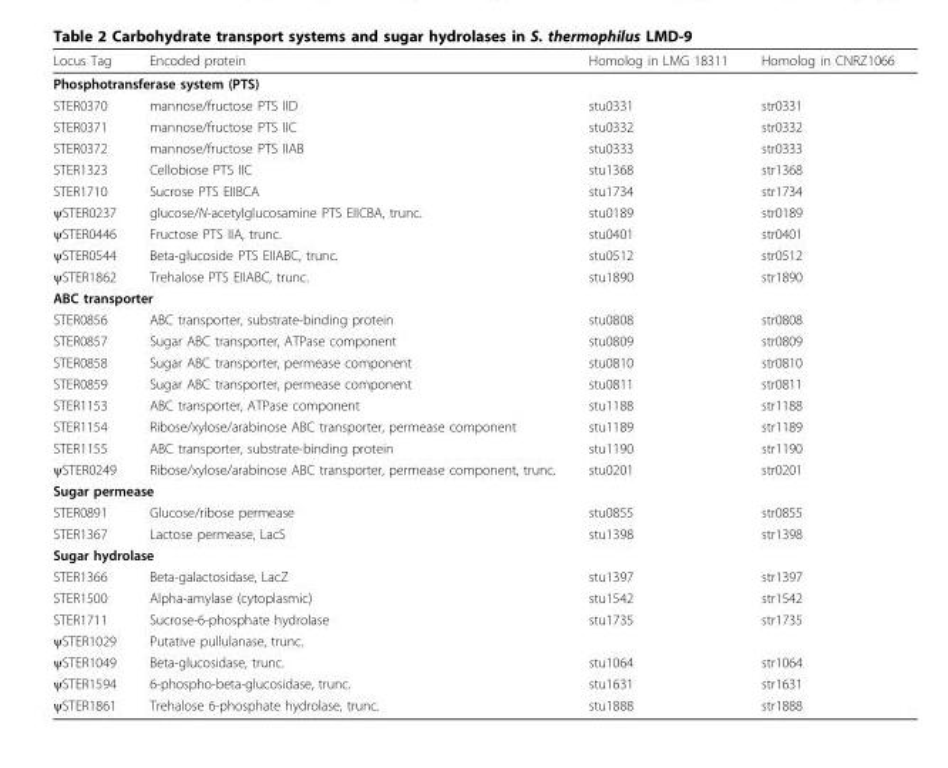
<table><thead><tr><td>Locus Tag</td><td>Encoded protein</td><td>Homolog in LMG 18311</td><td>Homolog in CNRZ1066</td></tr></thead><tbody><tr><td colspan="4">Phosphotransferase system (PTS)</td></tr><tr><td>STER0370</td><td>mannose/fructose PTS IID</td><td>stu0331</td><td>str0331</td></tr><tr><td>STER0371</td><td>mannose/fructose PTS IIC</td><td>stu0332</td><td>str0332</td></tr><tr><td>STER0372</td><td>mannose/fructose PTS IIAB</td><td>stu0333</td><td>str0333</td></tr><tr><td>STER1323</td><td>Cellobiose PTS IIC</td><td>stu1368</td><td>str1368</td></tr><tr><td>STER1710</td><td>Sucrose PTS EIIBCA</td><td>stu1734</td><td>str1734</td></tr><tr><td>ψSTER0237</td><td>glucose/N-acetylglucosamine PTS EIICBA, trunc.</td><td>stu0189</td><td>str0189</td></tr><tr><td>ψSTER0446</td><td>Fructose PTS IIA, trunc.</td><td>stu0401</td><td>str0401</td></tr><tr><td>ψSTER0544</td><td>Beta-glucoside PTS EIIABC, trunc.</td><td>stu0512</td><td>str0512</td></tr><tr><td>ψSTER1862</td><td>Trehalose PTS EIIABC, trunc.</td><td>stu1890</td><td>str1890</td></tr><tr><td colspan="4">ABC transporter</td></tr><tr><td>STER0856</td><td>ABC transporter, substrate-binding protein</td><td>stu0808</td><td>str0808</td></tr><tr><td>STER0857</td><td>Sugar ABC transporter, ATPase component</td><td>stu0809</td><td>str0809</td></tr><tr><td>STER0858</td><td>Sugar ABC transporter, permease component</td><td>stu0810</td><td>str0810</td></tr><tr><td>STER0859</td><td>Sugar ABC transporter, permease component</td><td>stu0811</td><td>str0811</td></tr><tr><td>STER1153</td><td>ABC transporter, ATPase component</td><td>stu1188</td><td>str1188</td></tr><tr><td>STER1154</td><td>Ribose/xylose/arabinose ABC transporter, permease component</td><td>stu1189</td><td>str1189</td></tr><tr><td>STER1155</td><td>ABC transporter, substrate-binding protein</td><td>stu1190</td><td>str1190</td></tr><tr><td>ψSTER0249</td><td>Ribose/xylose/arabinose ABC transporter, permease component, trunc.</td><td>stu0201</td><td>str0201</td></tr><tr><td colspan="4">Sugar permease</td></tr><tr><td>STER0891</td><td>Glucose/ribose permease</td><td>stu0855</td><td>str0855</td></tr><tr><td>STER1367</td><td>Lactose permease, LacS</td><td>stu1398</td><td>str1398</td></tr><tr><td colspan="4">Sugar hydrolase</td></tr><tr><td>STER1366</td><td>Beta-galactosidase, LacZ</td><td>stu1397</td><td>str1397</td></tr><tr><td>STER1500</td><td>Alpha-amylase (cytoplasmic)</td><td>stu1542</td><td>str1542</td></tr><tr><td>STER1711</td><td>Sucrose-6-phosphate hydrolase</td><td>stu1735</td><td>str1735</td></tr><tr><td>ψSTER1029</td><td>Putative pullulanase, trunc.</td><td></td><td></td></tr><tr><td>ψSTER1049</td><td>Beta-glucosidase, trunc.</td><td>stu1064</td><td>str1064</td></tr><tr><td>ψSTER1594</td><td>6-phospho-beta-glucosidase, trunc.</td><td>stu1631</td><td>str1631</td></tr><tr><td>ψSTER1861</td><td>Trehalose 6-phosphate hydrolase, trunc.</td><td>stu1888</td><td>str1888</td></tr></tbody></table>